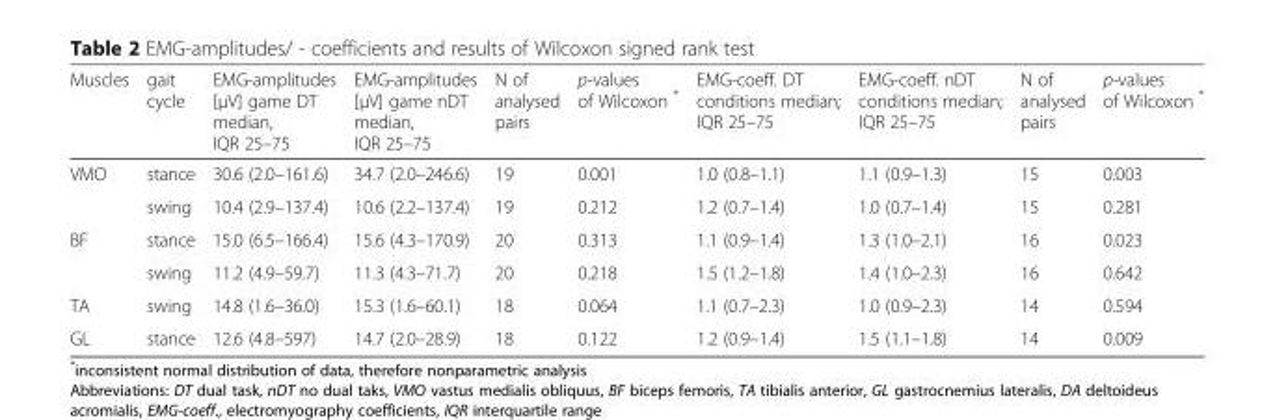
<table><thead><tr><td>Muscles</td><td>gait cycle</td><td>EMG-amplitudes [μV] game DT median, IQR 25–75</td><td>EMG-amplitudes [μV] game nDT median, IQR 25–75</td><td>N of analysed pairs</td><td>p-values of Wilcoxon *</td><td>EMG-coeff. DT conditions median; IQR 25–75</td><td>EMG-coeff. nDT conditions median; IQR 25–75</td><td>N of analysed pairs</td><td>p-values of Wilcoxon *</td></tr></thead><tbody><tr><td rowspan="2">VMO</td><td>stance</td><td>30.6 (2.0–161.6)</td><td>34.7 (2.0–246.6)</td><td>19</td><td>0.001</td><td>1.0 (0.8–1.1)</td><td>1.1 (0.9–1.3)</td><td>15</td><td>0.003</td></tr><tr><td>swing</td><td>10.4 (2.9–137.4)</td><td>10.6 (2.2–137.4)</td><td>19</td><td>0.212</td><td>1.2 (0.7–1.4)</td><td>1.0 (0.7–1.4)</td><td>15</td><td>0.281</td></tr><tr><td rowspan="2">BF</td><td>stance</td><td>15.0 (6.5–166.4)</td><td>15.6 (4.3–170.9)</td><td>20</td><td>0.313</td><td>1.1 (0.9–1.4)</td><td>1.3 (1.0–2.1)</td><td>16</td><td>0.023</td></tr><tr><td>swing</td><td>11.2 (4.9–59.7)</td><td>11.3 (4.3–71.7)</td><td>20</td><td>0.218</td><td>1.5 (1.2–1.8)</td><td>1.4 (1.0–2.3)</td><td>16</td><td>0.642</td></tr><tr><td>TA</td><td>swing</td><td>14.8 (1.6–36.0)</td><td>15.3 (1.6–60.1)</td><td>18</td><td>0.064</td><td>1.1 (0.7–2.3)</td><td>1.0 (0.9–2.3)</td><td>14</td><td>0.594</td></tr><tr><td>GL</td><td>stance</td><td>12.6 (4.8–597)</td><td>14.7 (2.0–28.9)</td><td>18</td><td>0.122</td><td>1.2 (0.9–1.4)</td><td>1.5 (1.1–1.8)</td><td>14</td><td>0.009</td></tr></tbody></table>